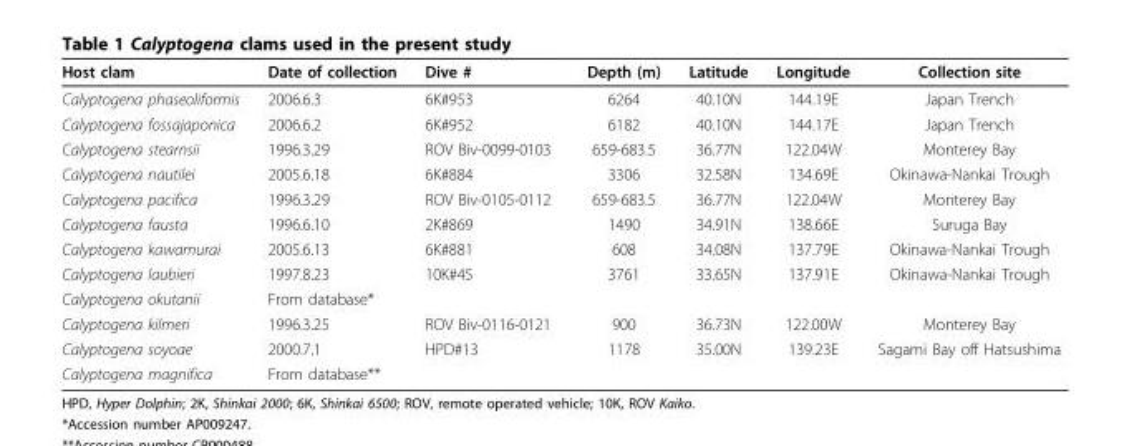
<table><thead><tr><td>Host clam</td><td>Date of collection</td><td>Dive #</td><td>Depth (m)</td><td>Latitude</td><td>Longitude</td><td>Collection site</td></tr></thead><tbody><tr><td>Calyptogena phaseoliformis</td><td>2006.6.3</td><td>6K#953</td><td>6264</td><td>40.10N</td><td>144.19E</td><td>Japan Trench</td></tr><tr><td>Calyptogena fossajaponica</td><td>2006.6.2</td><td>6K#952</td><td>6182</td><td>40.10N</td><td>144.17E</td><td>Japan Trench</td></tr><tr><td>Calyptogena stearnsii</td><td>1996.3.29</td><td>ROV Biv-0099-0103</td><td>659-683.5</td><td>36.77N</td><td>122.04W</td><td>Monterey Bay</td></tr><tr><td>Calyptogena nautilei</td><td>2005.6.18</td><td>6K#884</td><td>3306</td><td>32.58N</td><td>134.69E</td><td>Okinawa-Nankai Trough</td></tr><tr><td>Calyptogena pacifica</td><td>1996.3.29</td><td>ROV Biv-0105-0112</td><td>659-683.5</td><td>36.77N</td><td>122.04W</td><td>Monterey Bay</td></tr><tr><td>Calyptogena fausta</td><td>1996.6.10</td><td>2K#869</td><td>1490</td><td>34.91N</td><td>138.66E</td><td>Suruga Bay</td></tr><tr><td>Calyptogena kawamurai</td><td>2005.6.13</td><td>6K#881</td><td>608</td><td>34.08N</td><td>137.79E</td><td>Okinawa-Nankai Trough</td></tr><tr><td>Calyptogena laubieri</td><td>1997.8.23</td><td>10K#45</td><td>3761</td><td>33.65N</td><td>137.91E</td><td>Okinawa-Nankai Trough</td></tr><tr><td>Calyptogena okutanii</td><td>From database*</td><td></td><td></td><td></td><td></td><td></td></tr><tr><td>Calyptogena kilmeri</td><td>1996.3.25</td><td>ROV Biv-0116-0121</td><td>900</td><td>36.73N</td><td>122.00W</td><td>Monterey Bay</td></tr><tr><td>Calyptogena soyoae</td><td>2000.7.1</td><td>HPD#13</td><td>1178</td><td>35.00N</td><td>139.23E</td><td>Sagami Bay off Hatsushima</td></tr><tr><td>Calyptogena magnifica</td><td>From database**</td><td></td><td></td><td></td><td></td><td></td></tr></tbody></table>